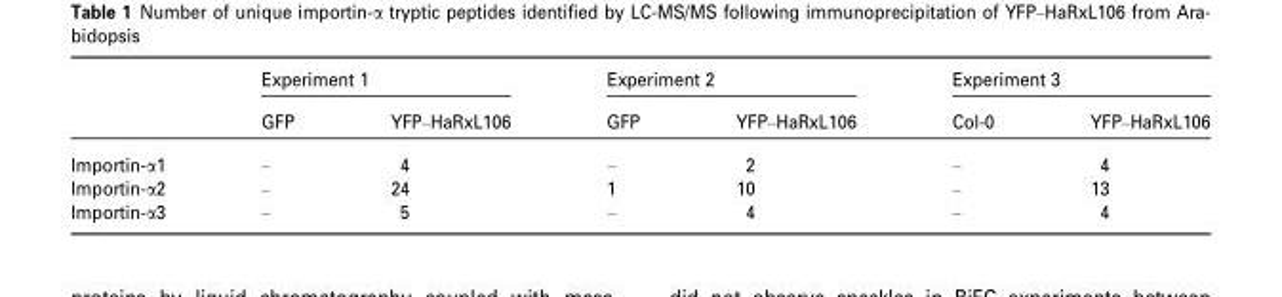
<table><thead><tr><td rowspan="2"></td><td colspan="2">Experiment 1</td><td colspan="2">Experiment 2</td><td colspan="2">Experiment 3</td></tr><tr><td>GFP</td><td>YFP–HaRxL106</td><td>GFP</td><td>YFP–HaRxL106</td><td>Col-0</td><td>YFP–HaRxL106</td></tr></thead><tbody><tr><td>Importin-α1</td><td>–</td><td>4</td><td>–</td><td>2</td><td>–</td><td>4</td></tr><tr><td>Importin-α2</td><td>–</td><td>24</td><td>1</td><td>10</td><td>–</td><td>13</td></tr><tr><td>Importin-α3</td><td>–</td><td>5</td><td>–</td><td>4</td><td>–</td><td>4</td></tr></tbody></table>